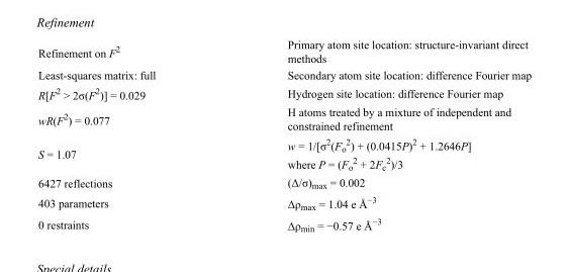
<table><tbody><tr><td>Refinement on F<sup>2</sup></td><td>Primary atom site location: structure-invariant direct methods</td></tr><tr><td>Least-squares matrix: full</td><td>Secondary atom site location: difference Fourier map</td></tr><tr><td>R[F<sup>2</sup> &gt; 2σ(F<sup>2</sup>)] = 0.029</td><td>Hydrogen site location: difference Fourier map</td></tr><tr><td>wR(F<sup>2</sup>) = 0.077</td><td>H atoms treated by a mixture of independent and constrained refinement</td></tr><tr><td>S = 1.07</td><td>w = 1/[σ<sup>2</sup>(F<sub>o</sub> <sup>2</sup>) + (0.0415P)<sup>2</sup> + 1.2646P] where P = (F<sub>o</sub> <sup>2</sup> + 2F<sub>c</sub> <sup>2</sup>)/3</td></tr><tr><td>6427 reflections</td><td>(Δ/σ)<sub>max</sub> = 0.002</td></tr><tr><td>403 parameters</td><td>Δρ<sub>max</sub> = 1.04 e Å<sup>−3</sup></td></tr><tr><td>0 restraints</td><td>Δρ<sub>min</sub> = −0.57 e Å<sup>−3</sup></td></tr></tbody></table>